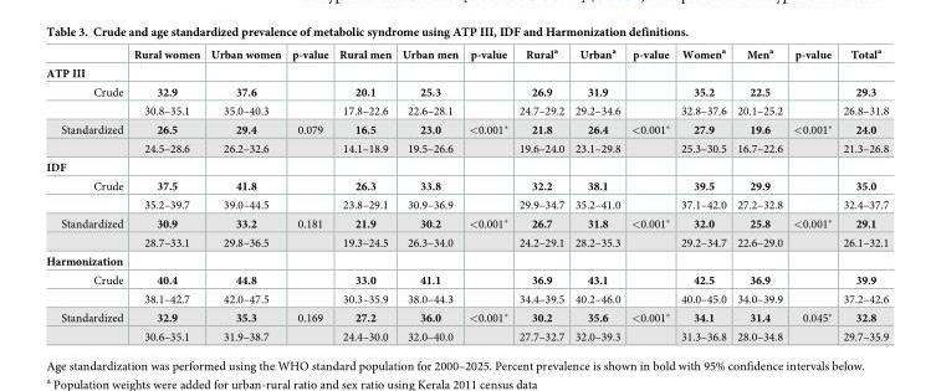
<table><thead><tr><td></td><td>Rural women</td><td>Urban women</td><td>p-value</td><td>Rural men</td><td>Urban men</td><td>p-value</td><td>Rural<sup>a</sup></td><td>Urban<sup>a</sup></td><td>p-value</td><td>Women<sup>a</sup></td><td>Men<sup>a</sup></td><td>p-value</td><td>Total<sup>a</sup></td></tr></thead><tbody><tr><td colspan="14">ATP III</td></tr><tr><td rowspan="2">Crude</td><td>32.9</td><td>37.6</td><td></td><td>20.1</td><td>25.3</td><td></td><td>26.9</td><td>31.9</td><td></td><td>35.2</td><td>22.5</td><td></td><td>29.3</td></tr><tr><td>30.8–35.1</td><td>35.0–40.3</td><td></td><td>17.8–22.6</td><td>22.6–28.1</td><td></td><td>24.7–29.2</td><td>29.2–34.6</td><td></td><td>32.8–37.6</td><td>20.1–25.2</td><td></td><td>26.8–31.8</td></tr><tr><td rowspan="2">Standardized</td><td>26.5</td><td>29.4</td><td>0.079</td><td>16.5</td><td>23.0</td><td>&lt;0.001*</td><td>21.8</td><td>26.4</td><td>&lt;0.001*</td><td>27.9</td><td>19.6</td><td>&lt;0.001*</td><td>24.0</td></tr><tr><td>24.5–28.6</td><td>26.2–32.6</td><td></td><td>14.1–18.9</td><td>19.5–26.6</td><td></td><td>19.6–24.0</td><td>23.1–29.8</td><td></td><td>25.3–30.5</td><td>16.7–22.6</td><td></td><td>21.3–26.8</td></tr><tr><td colspan="14">IDF</td></tr><tr><td rowspan="2">Crude</td><td>37.5</td><td>41.8</td><td></td><td>26.3</td><td>33.8</td><td></td><td>32.2</td><td>38.1</td><td></td><td>39.5</td><td>29.9</td><td></td><td>35.0</td></tr><tr><td>35.2–39.7</td><td>39.0–44.5</td><td></td><td>23.8–29.1</td><td>30.9–36.9</td><td></td><td>29.9–34.7</td><td>35.2–41.0</td><td></td><td>37.1–42.0</td><td>27.2–32.8</td><td></td><td>32.4–37.7</td></tr><tr><td rowspan="2">Standardized</td><td>30.9</td><td>33.2</td><td>0.181</td><td>21.9</td><td>30.2</td><td>&lt;0.001*</td><td>26.7</td><td>31.8</td><td>&lt;0.001*</td><td>32.0</td><td>25.8</td><td>&lt;0.001*</td><td>29.1</td></tr><tr><td>28.7–33.1</td><td>29.8–36.5</td><td></td><td>19.3–24.5</td><td>26.3–34.0</td><td></td><td>24.2–29.1</td><td>28.2–35.3</td><td></td><td>29.2–34.7</td><td>22.6–29.0</td><td></td><td>26.1–32.1</td></tr><tr><td colspan="14">Harmonization</td></tr><tr><td rowspan="2">Crude</td><td>40.4</td><td>44.8</td><td></td><td>33.0</td><td>41.1</td><td></td><td>36.9</td><td>43.1</td><td></td><td>42.5</td><td>36.9</td><td></td><td>39.9</td></tr><tr><td>38.1–42.7</td><td>42.0–47.5</td><td></td><td>30.3–35.9</td><td>38.0–44.3</td><td></td><td>34.4–39.5</td><td>40.2–46.0</td><td></td><td>40.0–45.0</td><td>34.0–39.9</td><td></td><td>37.2–42.6</td></tr><tr><td rowspan="2">Standardized</td><td>32.9</td><td>35.3</td><td>0.169</td><td>27.2</td><td>36.0</td><td>&lt;0.001*</td><td>30.2</td><td>35.6</td><td>&lt;0.001*</td><td>34.1</td><td>31.4</td><td>0.045*</td><td>32.8</td></tr><tr><td>30.6–35.1</td><td>31.9–38.7</td><td></td><td>24.4–30.0</td><td>32.0–40.0</td><td></td><td>27.7–32.7</td><td>32.0–39.3</td><td></td><td>31.3–36.8</td><td>28.0–34.8</td><td></td><td>29.7–35.9</td></tr></tbody></table>